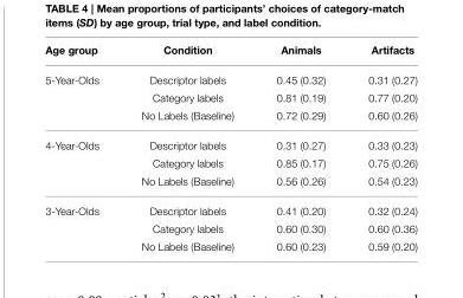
<table><thead><tr><td>Age group</td><td>Condition</td><td>Animals</td><td>Artifacts</td></tr></thead><tbody><tr><td rowspan="3">5-Year-Olds</td><td>Descriptor labels</td><td>0.45 (0.32)</td><td>0.31 (0.27)</td></tr><tr><td>Category labels</td><td>0.81 (0.19)</td><td>0.77 (0.20)</td></tr><tr><td>No Labels (Baseline)</td><td>0.72 (0.29)</td><td>0.60 (0.26)</td></tr><tr><td rowspan="3">4-Year-Olds</td><td>Descriptor labels</td><td>0.31 (0.27)</td><td>0.33 (0.23)</td></tr><tr><td>Category labels</td><td>0.85 (0.17)</td><td>0.75 (0.26)</td></tr><tr><td>No Labels (Baseline)</td><td>0.56 (0.26)</td><td>0.54 (0.23)</td></tr><tr><td rowspan="3">3-Year-Olds</td><td>Descriptor labels</td><td>0.41 (0.20)</td><td>0.32 (0.24)</td></tr><tr><td>Category labels</td><td>0.60 (0.30)</td><td>0.60 (0.36)</td></tr><tr><td>No Labels (Baseline)</td><td>0.60 (0.23)</td><td>0.59 (0.20)</td></tr></tbody></table>